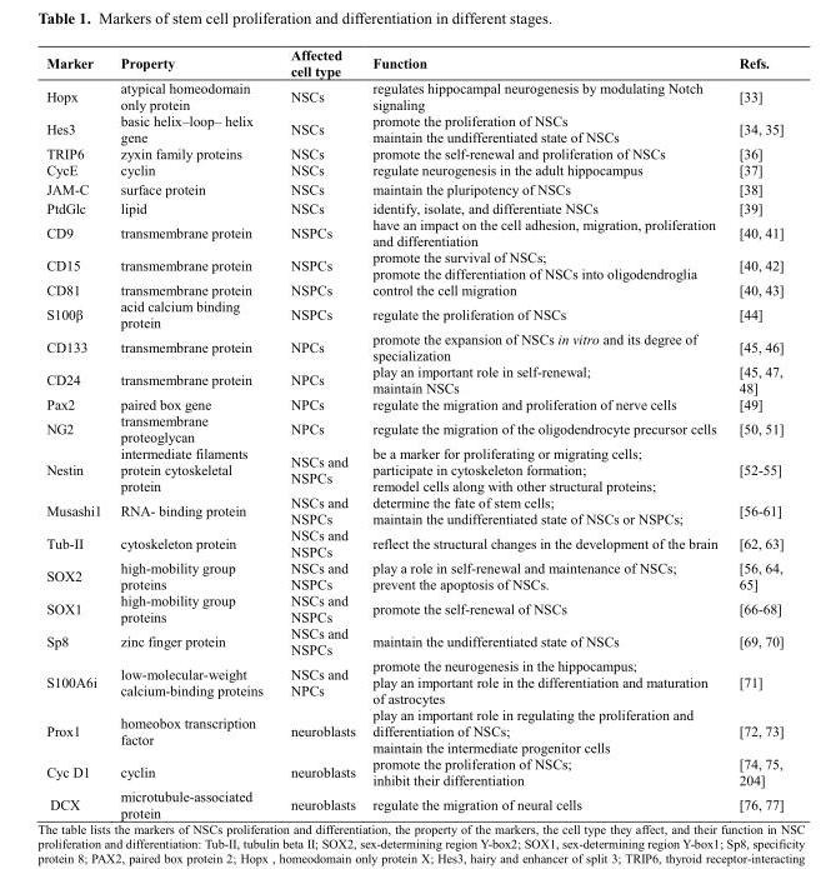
<table><thead><tr><td>Marker</td><td>Property</td><td>Affected cell type</td><td>Function</td><td>Refs.</td></tr></thead><tbody><tr><td>Hopx</td><td>atypical homeodomain only protein</td><td>NSCs</td><td>regulates hippocampal neurogenesis by modulating Notch signaling</td><td>[33]</td></tr><tr><td>Hes3</td><td>basic helix–loop– helix gene</td><td>NSCs</td><td>promote the proliferation of NSCs maintain the undifferentiated state of NSCs</td><td>[34, 35]</td></tr><tr><td>TRIP6</td><td>zyxin family proteins</td><td>NSCs</td><td>promote the self-renewal and proliferation of NSCs</td><td>[36]</td></tr><tr><td>CycE</td><td>cyclin</td><td>NSCs</td><td>regulate neurogenesis in the adult hippocampus</td><td>[37]</td></tr><tr><td>JAM-C</td><td>surface protein</td><td>NSCs</td><td>maintain the pluripotency of NSCs</td><td>[38]</td></tr><tr><td>PtdGlc</td><td>lipid</td><td>NSCs</td><td>identify, isolate, and differentiate NSCs</td><td>[39]</td></tr><tr><td>CD9</td><td>transmembrane protein</td><td>NSPCs</td><td>have an impact on the cell adhesion, migration, proliferation and differentiation</td><td>[40, 41]</td></tr><tr><td>CD15</td><td>transmembrane protein</td><td>NSPCs</td><td>promote the survival of NSCs; promote the differentiation of NSCs into oligodendroglia</td><td>[40, 42]</td></tr><tr><td>CD81</td><td>transmembrane protein</td><td>NSPCs</td><td>control the cell migration</td><td>[40, 43]</td></tr><tr><td>S100β</td><td>acid calcium binding protein</td><td>NSPCs</td><td>regulate the proliferation of NSCs</td><td>[44]</td></tr><tr><td>CD133</td><td>transmembrane protein</td><td>NPCs</td><td>promote the expansion of NSCs in vitro and its degree of specialization</td><td>[45, 46]</td></tr><tr><td>CD24</td><td>transmembrane protein</td><td>NPCs</td><td>play an important role in self-renewal; maintain NSCs</td><td>[45, 47, 48]</td></tr><tr><td>Pax2</td><td>paired box gene</td><td>NPCs</td><td>regulate the migration and proliferation of nerve cells</td><td>[49]</td></tr><tr><td>NG2</td><td>transmembrane proteoglycan</td><td>NPCs</td><td>regulate the migration of the oligodendrocyte precursor cells</td><td>[50, 51]</td></tr><tr><td>Nestin</td><td>intermediate filaments protein cytoskeletal protein</td><td>NSCs and NSPCs</td><td>be a marker for proliferating or migrating cells; participate in cytoskeleton formation; remodel cells along with other structural proteins;</td><td>[52-55]</td></tr><tr><td>Musashi1</td><td>RNA- binding protein</td><td>NSCs and NSPCs</td><td>determine the fate of stem cells; maintain the undifferentiated state of NSCs or NSPCs;</td><td>[56-61]</td></tr><tr><td>Tub-II</td><td>cytoskeleton protein</td><td>NSCs and NSPCs</td><td>reflect the structural changes in the development of the brain</td><td>[62, 63]</td></tr><tr><td>SOX2</td><td>high-mobility group proteins</td><td>NSCs and NSPCs</td><td>play a role in self-renewal and maintenance of NSCs; prevent the apoptosis of NSCs.</td><td>[56, 64, 65]</td></tr><tr><td>SOX1</td><td>high-mobility group proteins</td><td>NSCs and NSPCs</td><td>promote the self-renewal of NSCs</td><td>[66-68]</td></tr><tr><td>Sp8</td><td>zinc finger protein</td><td>NSCs and NSPCs</td><td>maintain the undifferentiated state of NSCs</td><td>[69, 70]</td></tr><tr><td>S100A6i</td><td>low-molecular-weight calcium-binding proteins</td><td>NSCs and NPCs</td><td>promote the neurogenesis in the hippocampus; play an important role in the differentiation and maturation of astrocytes</td><td>[71]</td></tr><tr><td>Prox1</td><td>homeobox transcription factor</td><td>neuroblasts</td><td>play an important role in regulating the proliferation and differentiation of NSCs; maintain the intermediate progenitor cells</td><td>[72, 73]</td></tr><tr><td>Cyc D1</td><td>cyclin</td><td>neuroblasts</td><td>promote the proliferation of NSCs; inhibit their differentiation</td><td>[74, 75, 204]</td></tr><tr><td>DCX</td><td>microtubule-associated protein</td><td>neuroblasts</td><td>regulate the migration of neural cells</td><td>[76, 77]</td></tr></tbody></table>